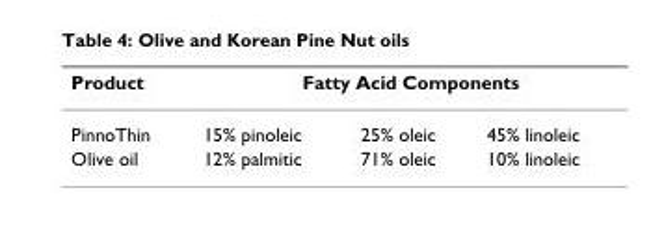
<table><thead><tr><td rowspan="2">Product PinnoThin</td><td colspan="3">Fatty Acid Components</td></tr><tr><td>15% pinoleic</td><td>25% oleic</td><td>45% linoleic</td></tr></thead><tbody><tr><td>Olive oil</td><td>12% palmitic</td><td>71% oleic</td><td>10% linoleic</td></tr></tbody></table>